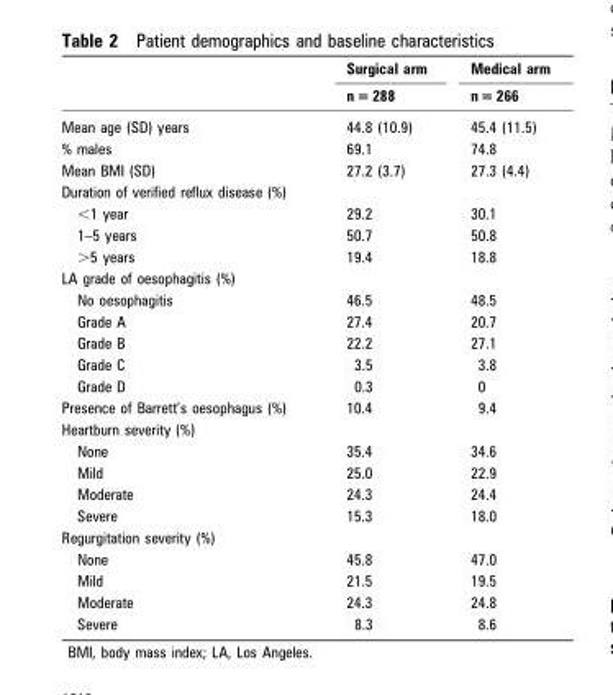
<table><thead><tr><td rowspan="2"></td><td rowspan="2">Surgical arm n = 288</td><td rowspan="2">Medical arm n = 266</td></tr><tr></tr></thead><tbody><tr><td>Mean age (SD) years</td><td>44.8 (10.9)</td><td>45.4 (11.5)</td></tr><tr><td>% males</td><td>69.1</td><td>74.8</td></tr><tr><td>Mean BMI (SD)</td><td>27.2 (3.7)</td><td>27.3 (4.4)</td></tr><tr><td colspan="3">Duration of verified reflux disease (%)</td></tr><tr><td>&lt;1 year</td><td>29.2</td><td>30.1</td></tr><tr><td>1–5 years</td><td>50.7</td><td>50.8</td></tr><tr><td>&gt;5 years</td><td>19.4</td><td>18.8</td></tr><tr><td colspan="3">LA grade of oesophagitis (%)</td></tr><tr><td>No oesophagitis</td><td>46.5</td><td>48.5</td></tr><tr><td>Grade A</td><td>27.4</td><td>20.7</td></tr><tr><td>Grade B</td><td>22.2</td><td>27.1</td></tr><tr><td>Grade C</td><td>3.5</td><td>3.8</td></tr><tr><td>Grade D</td><td>0.3</td><td>0</td></tr><tr><td>Presence of Barrett’s oesophagus (%)</td><td>10.4</td><td>9.4</td></tr><tr><td colspan="3">Heartburn severity (%)</td></tr><tr><td>None</td><td>35.4</td><td>34.6</td></tr><tr><td>Mild</td><td>25.0</td><td>22.9</td></tr><tr><td>Moderate</td><td>24.3</td><td>24.4</td></tr><tr><td>Severe</td><td>15.3</td><td>18.0</td></tr><tr><td colspan="3">Regurgitation severity (%)</td></tr><tr><td>None</td><td>45.8</td><td>47.0</td></tr><tr><td>Mild</td><td>21.5</td><td>19.5</td></tr><tr><td>Moderate</td><td>24.3</td><td>24.8</td></tr><tr><td>Severe</td><td>8.3</td><td>8.6</td></tr></tbody></table>